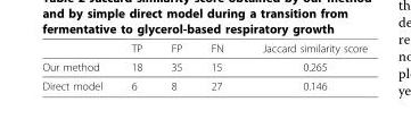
<table><thead><tr><td></td><td>TP</td><td>FP</td><td>FN</td><td>Jaccard similarity score</td></tr></thead><tbody><tr><td>Our method</td><td>18</td><td>35</td><td>15</td><td>0.265</td></tr><tr><td>Direct model</td><td>6</td><td>8</td><td>27</td><td>0.146</td></tr></tbody></table>